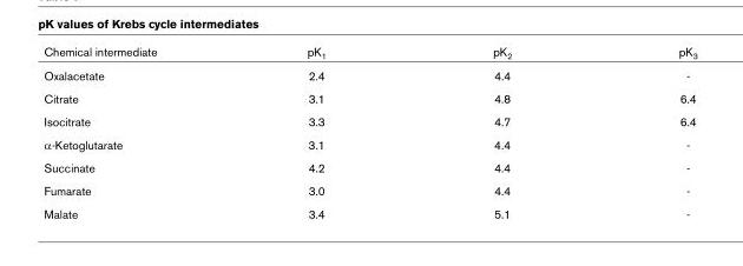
<table><thead><tr><td>Chemical intermediate</td><td>pK<sub>1</sub></td><td>pK<sub>2</sub></td><td>pK<sub>3</sub></td></tr></thead><tbody><tr><td>Oxalacetate</td><td>2.4</td><td>4.4</td><td>-</td></tr><tr><td>Citrate</td><td>3.1</td><td>4.8</td><td>6.4</td></tr><tr><td>Isocitrate</td><td>3.3</td><td>4.7</td><td>6.4</td></tr><tr><td>α-Ketoglutarate</td><td>3.1</td><td>4.4</td><td>-</td></tr><tr><td>Succinate</td><td>4.2</td><td>4.4</td><td>-</td></tr><tr><td>Fumarate</td><td>3.0</td><td>4.4</td><td>-</td></tr><tr><td>Malate</td><td>3.4</td><td>5.1</td><td>-</td></tr></tbody></table>